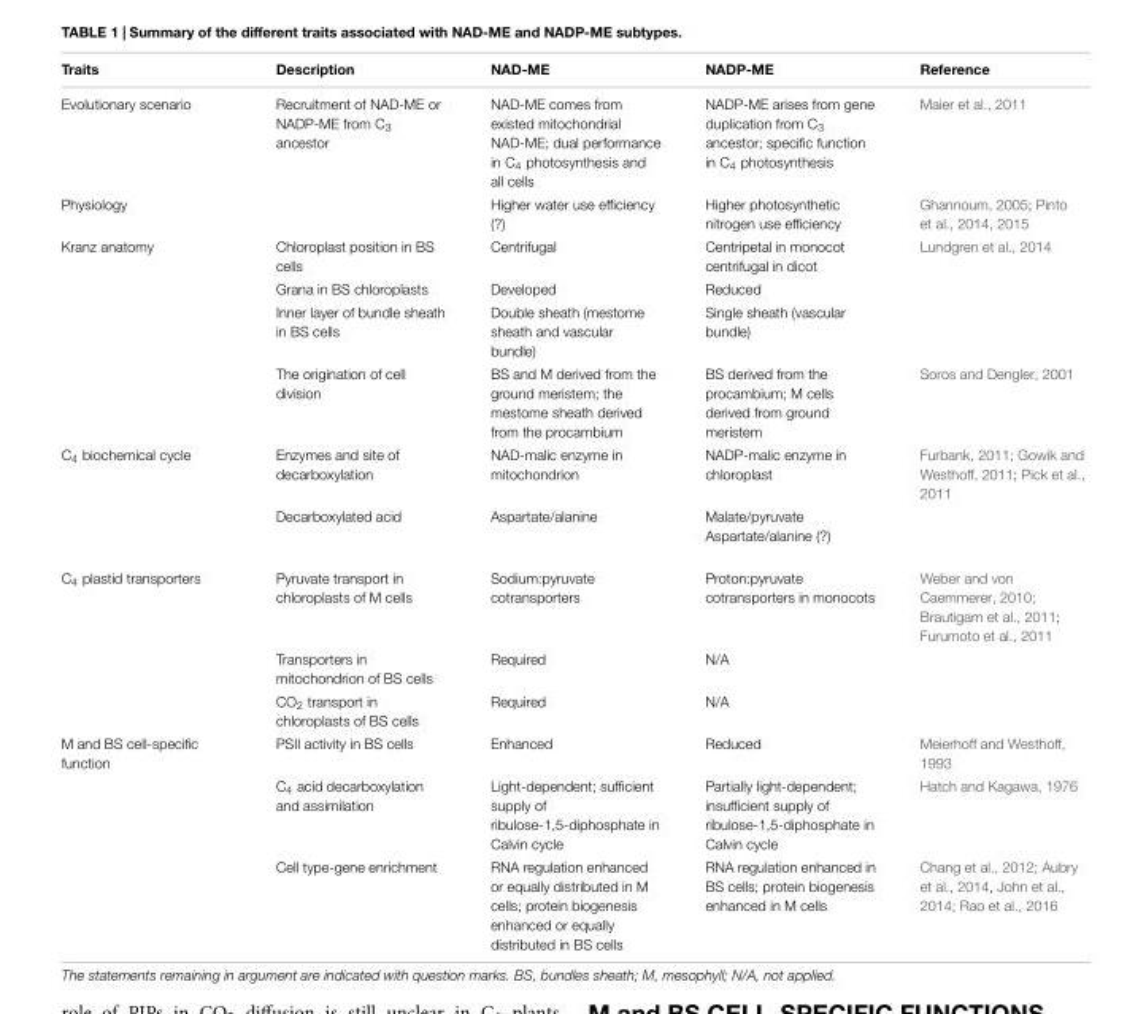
<table><thead><tr><td>Traits</td><td>Description</td><td>NAD-ME</td><td>NADP-ME</td><td>Reference</td></tr></thead><tbody><tr><td>Evolutionary scenario</td><td>Recruitment of NAD-ME or NADP-ME from C<sub>3</sub> ancestor</td><td>NAD-ME comes from existed mitochondrial NAD-ME; dual performance in C<sub>4</sub> photosynthesis and all cells</td><td>NADP-ME arises from gene duplication from C<sub>3</sub> ancestor; specific function in C<sub>4</sub> photosynthesis</td><td>Maier et al., 2011</td></tr><tr><td>Physiology</td><td></td><td>Higher water use efficiency (?)</td><td>Higher photosynthetic nitrogen use efficiency</td><td>Ghannoum, 2005; Pinto et al., 2014, 2015</td></tr><tr><td rowspan="4">Kranz anatomy</td><td>Chloroplast position in BS cells</td><td>Centrifugal</td><td>Centripetal in monocot centrifugal in dicot</td><td>Lundgren et al., 2014</td></tr><tr><td>Grana in BS chloroplasts</td><td>Developed</td><td>Reduced</td><td></td></tr><tr><td>Inner layer of bundle sheath in BS cells</td><td>Double sheath (mestome sheath and vascular bundle)</td><td>Single sheath (vascular bundle)</td><td></td></tr><tr><td>The origination of cell division</td><td>BS and M derived from the ground meristem; the mestome sheath derived from the procambium</td><td>BS derived from the procambium; M cells derived from ground meristem</td><td>Soros and Dengler, 2001</td></tr><tr><td rowspan="2">C<sub>4</sub> biochemical cycle</td><td>Enzymes and site of decarboxylation</td><td>NAD-malic enzyme in mitochondrion</td><td>NADP-malic enzyme in chloroplast</td><td>Furbank, 2011; Gowik and Westhoff, 2011; Pick et al., 2011</td></tr><tr><td>Decarboxylated acid</td><td>Aspartate/alanine</td><td>Malate/pyruvate Aspartate/alanine (?)</td><td></td></tr><tr><td rowspan="3">C<sub>4</sub> plastid transporters</td><td>Pyruvate transport in chloroplasts of M cells</td><td>Sodium:pyruvate cotransporters</td><td>Proton:pyruvate cotransporters in monocots</td><td>Weber and von Caemmerer, 2010; Brautigam et al., 2011; Furumoto et al., 2011</td></tr><tr><td>Transporters in mitochondrion of BS cells</td><td>Required</td><td>N/A</td><td></td></tr><tr><td>CO<sub>2</sub> transport in chloroplasts of BS cells</td><td>Required</td><td>N/A</td><td></td></tr><tr><td rowspan="3">M and BS cell-specific function</td><td>PSII activity in BS cells</td><td>Enhanced</td><td>Reduced</td><td>Meierhoff and Westhoff, 1993</td></tr><tr><td>C<sub>4</sub> acid decarboxylation and assimilation</td><td>Light-dependent; sufficient supply of ribulose-1,5-diphosphate in Calvin cycle</td><td>Partially light-dependent; insufficient supply of ribulose-1,5-diphosphate in Calvin cycle</td><td>Hatch and Kagawa, 1976</td></tr><tr><td>Cell type-gene enrichment</td><td>RNA regulation enhanced or equally distributed in M cells; protein biogenesis enhanced or equally distributed in BS cells</td><td>RNA regulation enhanced in BS cells; protein biogenesis enhanced in M cells</td><td>Chang et al., 2012; Aubry et al., 2014, John et al., 2014; Rao et al., 2016</td></tr></tbody></table>